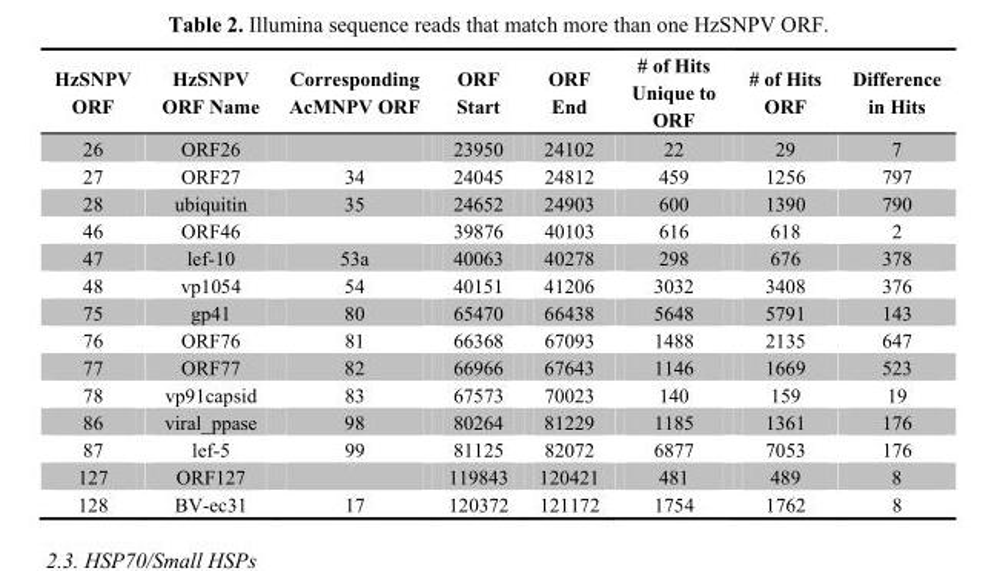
<table><thead><tr><td>HzSNPV ORF</td><td>HzSNPV ORF Name</td><td>Corresponding AcMNPV ORF</td><td>ORF Start</td><td>ORF End</td><td># of Hits Unique to ORF</td><td># of Hits ORF</td><td>Difference in Hits</td></tr></thead><tbody><tr><td>26</td><td>ORF26</td><td></td><td>23950</td><td>24102</td><td>22</td><td>29</td><td>7</td></tr><tr><td>27</td><td>ORF27</td><td>34</td><td>24045</td><td>24812</td><td>459</td><td>1256</td><td>797</td></tr><tr><td>28</td><td>ubiquitin</td><td>35</td><td>24652</td><td>24903</td><td>600</td><td>1390</td><td>790</td></tr><tr><td>46</td><td>ORF46</td><td></td><td>39876</td><td>40103</td><td>616</td><td>618</td><td>2</td></tr><tr><td>47</td><td>lef-10</td><td>53a</td><td>40063</td><td>40278</td><td>298</td><td>676</td><td>378</td></tr><tr><td>48</td><td>vp1054</td><td>54</td><td>40151</td><td>41206</td><td>3032</td><td>3408</td><td>376</td></tr><tr><td>75</td><td>gp41</td><td>80</td><td>65470</td><td>66438</td><td>5648</td><td>5791</td><td>143</td></tr><tr><td>76</td><td>ORF76</td><td>81</td><td>66368</td><td>67093</td><td>1488</td><td>2135</td><td>647</td></tr><tr><td>77</td><td>ORF77</td><td>82</td><td>66966</td><td>67643</td><td>1146</td><td>1669</td><td>523</td></tr><tr><td>78</td><td>vp91capsid</td><td>83</td><td>67573</td><td>70023</td><td>140</td><td>159</td><td>19</td></tr><tr><td>86</td><td>viral_ppase</td><td>98</td><td>80264</td><td>81229</td><td>1185</td><td>1361</td><td>176</td></tr><tr><td>87</td><td>lef-5</td><td>99</td><td>81125</td><td>82072</td><td>6877</td><td>7053</td><td>176</td></tr><tr><td>127</td><td>ORF127</td><td></td><td>119843</td><td>120421</td><td>481</td><td>489</td><td>8</td></tr><tr><td>128</td><td>BV-ec31</td><td>17</td><td>120372</td><td>121172</td><td>1754</td><td>1762</td><td>8</td></tr></tbody></table>